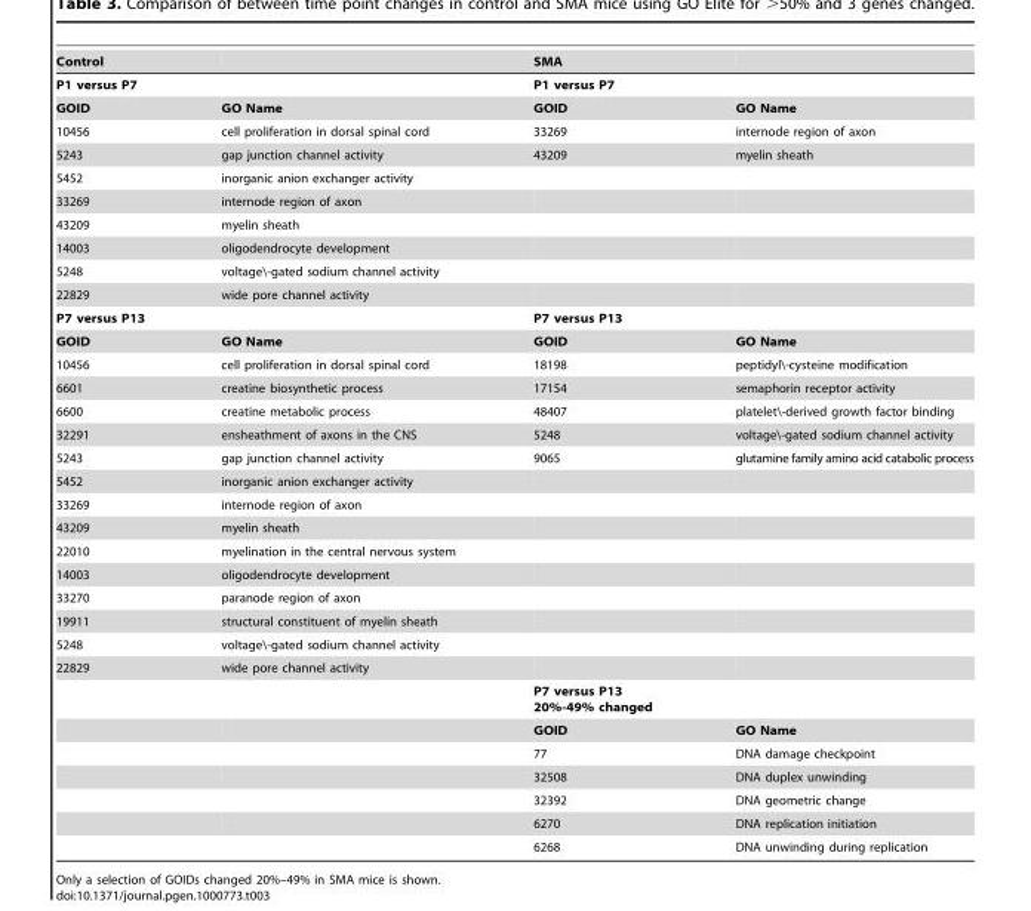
<table><tbody><tr><td>Control</td><td></td><td>SMA</td><td></td></tr><tr><td>P1 versus P7</td><td></td><td>P1 versus P7</td><td></td></tr><tr><td>GOID</td><td>GO Name</td><td>GOID</td><td>GO Name</td></tr><tr><td>10456</td><td>cell proliferation in dorsal spinal cord</td><td>33269</td><td>internode region of axon</td></tr><tr><td>5243</td><td>gap junction channel activity</td><td>43209</td><td>myelin sheath</td></tr><tr><td>5452</td><td>inorganic anion exchanger activity</td><td></td><td></td></tr><tr><td>33269</td><td>internode region of axon</td><td></td><td></td></tr><tr><td>43209</td><td>myelin sheath</td><td></td><td></td></tr><tr><td>14003</td><td>oligodendrocyte development</td><td></td><td></td></tr><tr><td>5248</td><td>voltage\-gated sodium channel activity</td><td></td><td></td></tr><tr><td>22829</td><td>wide pore channel activity</td><td></td><td></td></tr><tr><td>P7 versus P13</td><td></td><td>P7 versus P13</td><td></td></tr><tr><td>GOID</td><td>GO Name</td><td>GOID</td><td>GO Name</td></tr><tr><td>10456</td><td>cell proliferation in dorsal spinal cord</td><td>18198</td><td>peptidyl\-cysteine modification</td></tr><tr><td>6601</td><td>creatine biosynthetic process</td><td>17154</td><td>semaphorin receptor activity</td></tr><tr><td>6600</td><td>creatine metabolic process</td><td>48407</td><td>platelet\-derived growth factor binding</td></tr><tr><td>32291</td><td>ensheathment of axons in the CNS</td><td>5248</td><td>voltage\-gated sodium channel activity</td></tr><tr><td>5243</td><td>gap junction channel activity</td><td>9065</td><td>glutamine family amino acid catabolic process</td></tr><tr><td>5452</td><td>inorganic anion exchanger activity</td><td></td><td></td></tr><tr><td>33269</td><td>internode region of axon</td><td></td><td></td></tr><tr><td>43209</td><td>myelin sheath</td><td></td><td></td></tr><tr><td>22010</td><td>myelination in the central nervous system</td><td></td><td></td></tr><tr><td>14003</td><td>oligodendrocyte development</td><td></td><td></td></tr><tr><td>33270</td><td>paranode region of axon</td><td></td><td></td></tr><tr><td>19911</td><td>structural constituent of myelin sheath</td><td></td><td></td></tr><tr><td>5248</td><td>voltage\-gated sodium channel activity</td><td></td><td></td></tr><tr><td rowspan="8">22829</td><td>wide pore channel activity</td><td></td><td></td></tr><tr><td></td><td>P7 versus P13 20%-49% changed</td><td></td></tr><tr><td></td><td>GOID</td><td>GO Name</td></tr><tr><td></td><td>77</td><td>DNA damage checkpoint</td></tr><tr><td></td><td>32508</td><td>DNA duplex unwinding</td></tr><tr><td></td><td>32392</td><td>DNA geometric change</td></tr><tr><td></td><td>6270</td><td>DNA replication initiation</td></tr><tr><td></td><td>6268</td><td>DNA unwinding during replication</td></tr></tbody></table>